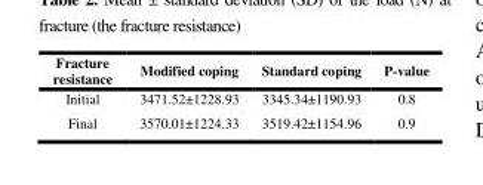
<table><thead><tr><td>Fracture resistance</td><td>Modified coping</td><td>Standard coping</td><td>P-value</td></tr></thead><tbody><tr><td>Initial</td><td>3471.52±1228.93</td><td>3345.34±1190.93</td><td>0.8</td></tr><tr><td>Final</td><td>3570.01±1224.33</td><td>3519.42±1154.96</td><td>0.9</td></tr></tbody></table>